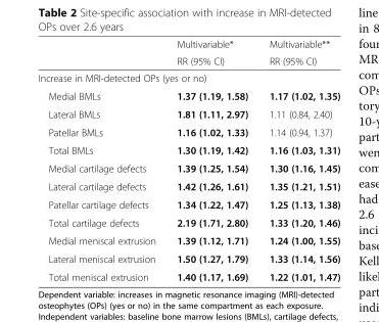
<table><thead><tr><td rowspan="2"></td><td rowspan="2">Multivariable* RR (95% CI)</td><td rowspan="2">Multivariable** RR (95% CI)</td></tr><tr></tr></thead><tbody><tr><td colspan="3">Increase in MRI-detected OPs (yes or no)</td></tr><tr><td>Medial BMLs</td><td>1.37 (1.19, 1.58)</td><td>1.17 (1.02, 1.35)</td></tr><tr><td>Lateral BMLs</td><td>1.81 (1.11, 2.97)</td><td>1.11 (0.84, 2.40)</td></tr><tr><td>Patellar BMLs</td><td>1.16 (1.02, 1.33)</td><td>1.14 (0.94, 1.37)</td></tr><tr><td>Total BMLs</td><td>1.30 (1.19, 1.42)</td><td>1.16 (1.03, 1.31)</td></tr><tr><td>Medial cartilage defects</td><td>1.39 (1.25, 1.54)</td><td>1.30 (1.16, 1.45)</td></tr><tr><td>Lateral cartilage defects</td><td>1.42 (1.26, 1.61)</td><td>1.35 (1.21, 1.51)</td></tr><tr><td>Patellar cartilage defects</td><td>1.34 (1.22, 1.47)</td><td>1.25 (1.13, 1.38)</td></tr><tr><td>Total cartilage defects</td><td>2.19 (1.71, 2.80)</td><td>1.33 (1.20, 1.46)</td></tr><tr><td>Medial meniscal extrusion</td><td>1.39 (1.12, 1.71)</td><td>1.24 (1.00, 1.55)</td></tr><tr><td>Lateral meniscal extrusion</td><td>1.50 (1.27, 1.79)</td><td>1.33 (1.14, 1.56)</td></tr><tr><td>Total meniscal extrusion</td><td>1.40 (1.17, 1.69)</td><td>1.22 (1.01, 1.47)</td></tr></tbody></table>